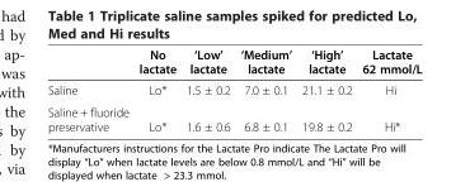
<table><thead><tr><td></td><td>No lactate</td><td>‘Low’ lactate</td><td>‘Medium’ lactate</td><td>‘High’ lactate</td><td>Lactate 62 mmol/L</td></tr></thead><tbody><tr><td>Saline</td><td>Lo*</td><td>1.5 ± 0.2</td><td>7.0 ± 0.1</td><td>21.1 ± 0.2</td><td>Hi</td></tr><tr><td>Saline + fluoride preservative</td><td>Lo*</td><td>1.6 ± 0.6</td><td>6.8 ± 0.1</td><td>19.8 ± 0.2</td><td>Hi*</td></tr></tbody></table>